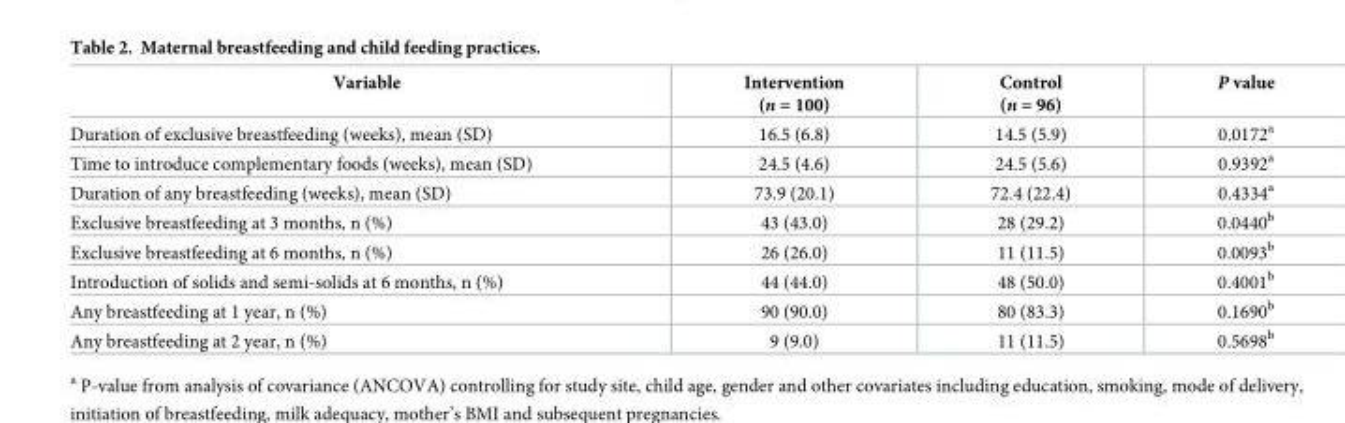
<table><thead><tr><td>Variable</td><td>Intervention (n = 100)</td><td>Control (n = 96)</td><td>P value</td></tr></thead><tbody><tr><td>Duration of exclusive breastfeeding (weeks), mean (SD)</td><td>16.5 (6.8)</td><td>14.5 (5.9)</td><td>0.0172<sup>a</sup></td></tr><tr><td>Time to introduce complementary foods (weeks), mean (SD)</td><td>24.5 (4.6)</td><td>24.5 (5.6)</td><td>0.9392<sup>a</sup></td></tr><tr><td>Duration of any breastfeeding (weeks), mean (SD)</td><td>73.9 (20.1)</td><td>72.4 (22.4)</td><td>0.4334<sup>a</sup></td></tr><tr><td>Exclusive breastfeeding at 3 months, n (%)</td><td>43 (43.0)</td><td>28 (29.2)</td><td>0.0440<sup>b</sup></td></tr><tr><td>Exclusive breastfeeding at 6 months, n (%)</td><td>26 (26.0)</td><td>11 (11.5)</td><td>0.0093<sup>b</sup></td></tr><tr><td>Introduction of solids and semi-solids at 6 months, n (%)</td><td>44 (44.0)</td><td>48 (50.0)</td><td>0.4001<sup>b</sup></td></tr><tr><td>Any breastfeeding at 1 year, n (%)</td><td>90 (90.0)</td><td>80 (83.3)</td><td>0.1690<sup>b</sup></td></tr><tr><td>Any breastfeeding at 2 year, n (%)</td><td>9 (9.0)</td><td>11 (11.5)</td><td>0.5698<sup>b</sup></td></tr></tbody></table>